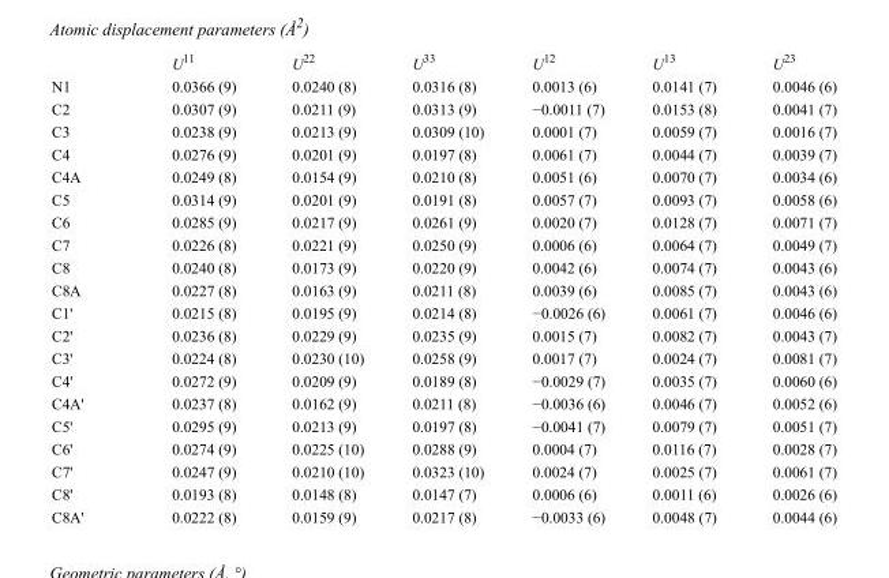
<table><thead><tr><td></td><td>U<sup>11</sup></td><td>U<sup>22</sup></td><td>U<sup>33</sup></td><td>U<sup>12</sup></td><td>U<sup>13</sup></td><td>U<sup>23</sup></td></tr></thead><tbody><tr><td>N1</td><td>0.0366 (9)</td><td>0.0240 (8)</td><td>0.0316 (8)</td><td>0.0013 (6)</td><td>0.0141 (7)</td><td>0.0046 (6)</td></tr><tr><td>C2</td><td>0.0307 (9)</td><td>0.0211 (9)</td><td>0.0313 (9)</td><td>−0.0011 (7)</td><td>0.0153 (8)</td><td>0.0041 (7)</td></tr><tr><td>C3</td><td>0.0238 (9)</td><td>0.0213 (9)</td><td>0.0309 (10)</td><td>0.0001 (7)</td><td>0.0059 (7)</td><td>0.0016 (7)</td></tr><tr><td>C4</td><td>0.0276 (9)</td><td>0.0201 (9)</td><td>0.0197 (8)</td><td>0.0061 (7)</td><td>0.0044 (7)</td><td>0.0039 (7)</td></tr><tr><td>C4A</td><td>0.0249 (8)</td><td>0.0154 (9)</td><td>0.0210 (8)</td><td>0.0051 (6)</td><td>0.0070 (7)</td><td>0.0034 (6)</td></tr><tr><td>C5</td><td>0.0314 (9)</td><td>0.0201 (9)</td><td>0.0191 (8)</td><td>0.0057 (7)</td><td>0.0093 (7)</td><td>0.0058 (6)</td></tr><tr><td>C6</td><td>0.0285 (9)</td><td>0.0217 (9)</td><td>0.0261 (9)</td><td>0.0020 (7)</td><td>0.0128 (7)</td><td>0.0071 (7)</td></tr><tr><td>C7</td><td>0.0226 (8)</td><td>0.0221 (9)</td><td>0.0250 (9)</td><td>0.0006 (6)</td><td>0.0064 (7)</td><td>0.0049 (7)</td></tr><tr><td>C8</td><td>0.0240 (8)</td><td>0.0173 (9)</td><td>0.0220 (9)</td><td>0.0042 (6)</td><td>0.0074 (7)</td><td>0.0043 (6)</td></tr><tr><td>C8A</td><td>0.0227 (8)</td><td>0.0163 (9)</td><td>0.0211 (8)</td><td>0.0039 (6)</td><td>0.0085 (7)</td><td>0.0043 (6)</td></tr><tr><td>C1&#x27;</td><td>0.0215 (8)</td><td>0.0195 (9)</td><td>0.0214 (8)</td><td>−0.0026 (6)</td><td>0.0061 (7)</td><td>0.0046 (6)</td></tr><tr><td>C2&#x27;</td><td>0.0236 (8)</td><td>0.0229 (9)</td><td>0.0235 (9)</td><td>0.0015 (7)</td><td>0.0082 (7)</td><td>0.0043 (7)</td></tr><tr><td>C3&#x27;</td><td>0.0224 (8)</td><td>0.0230 (10)</td><td>0.0258 (9)</td><td>0.0017 (7)</td><td>0.0024 (7)</td><td>0.0081 (7)</td></tr><tr><td>C4&#x27;</td><td>0.0272 (9)</td><td>0.0209 (9)</td><td>0.0189 (8)</td><td>−0.0029 (7)</td><td>0.0035 (7)</td><td>0.0060 (6)</td></tr><tr><td>C4A&#x27;</td><td>0.0237 (8)</td><td>0.0162 (9)</td><td>0.0211 (8)</td><td>−0.0036 (6)</td><td>0.0046 (7)</td><td>0.0052 (6)</td></tr><tr><td>C5&#x27;</td><td>0.0295 (9)</td><td>0.0213 (9)</td><td>0.0197 (8)</td><td>−0.0041 (7)</td><td>0.0079 (7)</td><td>0.0051 (7)</td></tr><tr><td>C6&#x27;</td><td>0.0274 (9)</td><td>0.0225 (10)</td><td>0.0288 (9)</td><td>0.0004 (7)</td><td>0.0116 (7)</td><td>0.0028 (7)</td></tr><tr><td>C7&#x27;</td><td>0.0247 (9)</td><td>0.0210 (10)</td><td>0.0323 (10)</td><td>0.0024 (7)</td><td>0.0025 (7)</td><td>0.0061 (7)</td></tr><tr><td>C8&#x27;</td><td>0.0193 (8)</td><td>0.0148 (8)</td><td>0.0147 (7)</td><td>0.0006 (6)</td><td>0.0011 (6)</td><td>0.0026 (6)</td></tr><tr><td>C8A&#x27;</td><td>0.0222 (8)</td><td>0.0159 (9)</td><td>0.0217 (8)</td><td>−0.0033 (6)</td><td>0.0048 (7)</td><td>0.0044 (6)</td></tr></tbody></table>